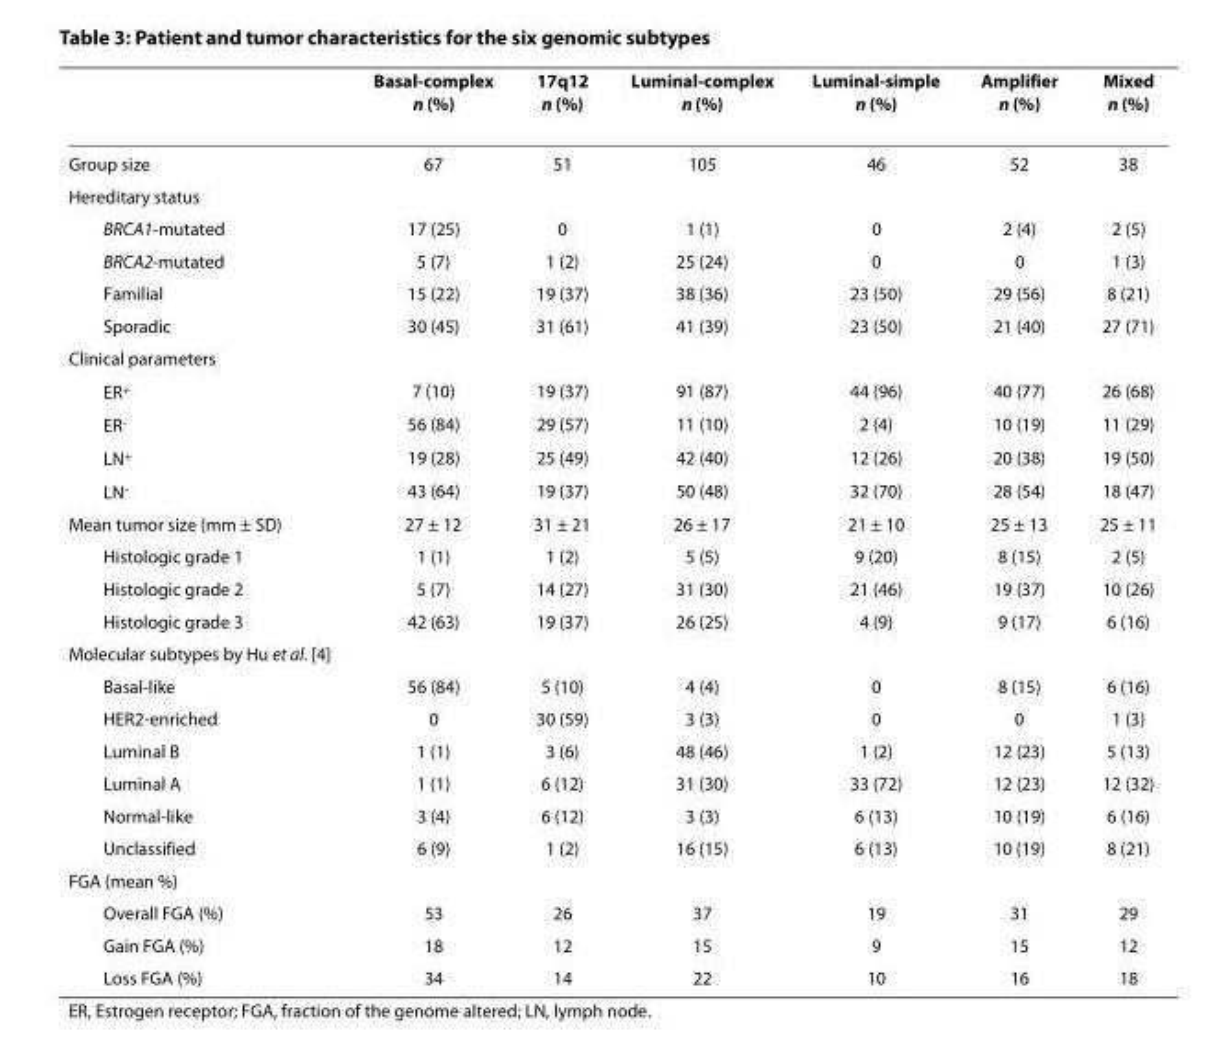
<table><thead><tr><td></td><td>Basal-complex n (%)</td><td>17q12 n (%)</td><td>Luminal-complex n (%)</td><td>Luminal-simple n (%)</td><td>Amplifier n (%)</td><td>Mixed n (%)</td></tr></thead><tbody><tr><td>Group size</td><td>67</td><td>51</td><td>105</td><td>46</td><td>52</td><td>38</td></tr><tr><td colspan="7">Hereditary status</td></tr><tr><td>BRCA1-mutated</td><td>17 (25)</td><td>0</td><td>1 (1)</td><td>0</td><td>2 (4)</td><td>2 (5)</td></tr><tr><td>BRCA2-mutated</td><td>5 (7)</td><td>1 (2)</td><td>25 (24)</td><td>0</td><td>0</td><td>1 (3)</td></tr><tr><td>Familial</td><td>15 (22)</td><td>19 (37)</td><td>38 (36)</td><td>23 (50)</td><td>29 (56)</td><td>8 (21)</td></tr><tr><td>Sporadic</td><td>30 (45)</td><td>31 (61)</td><td>41 (39)</td><td>23 (50)</td><td>21 (40)</td><td>27 (71)</td></tr><tr><td colspan="7">Clinical parameters</td></tr><tr><td>ER<sup>+</sup></td><td>7 (10)</td><td>19 (37)</td><td>91 (87)</td><td>44 (96)</td><td>40 (77)</td><td>26 (68)</td></tr><tr><td>ER<sup>-</sup></td><td>56 (84)</td><td>29 (57)</td><td>11 (10)</td><td>2 (4)</td><td>10 (19)</td><td>11 (29)</td></tr><tr><td>LN<sup>+</sup></td><td>19 (28)</td><td>25 (49)</td><td>42 (40)</td><td>12 (26)</td><td>20 (38)</td><td>19 (50)</td></tr><tr><td>LN<sup>-</sup></td><td>43 (64)</td><td>19 (37)</td><td>50 (48)</td><td>32 (70)</td><td>28 (54)</td><td>18 (47)</td></tr><tr><td>Mean tumor size (mm ± SD)</td><td>27 ± 12</td><td>31 ± 21</td><td>26 ± 17</td><td>21 ± 10</td><td>25 ± 13</td><td>25 ± 11</td></tr><tr><td>Histologic grade 1</td><td>1 (1)</td><td>1 (2)</td><td>5 (5)</td><td>9 (20)</td><td>8 (15)</td><td>2 (5)</td></tr><tr><td>Histologic grade 2</td><td>5 (7)</td><td>14 (27)</td><td>31 (30)</td><td>21 (46)</td><td>19 (37)</td><td>10 (26)</td></tr><tr><td>Histologic grade 3</td><td>42 (63)</td><td>19 (37)</td><td>26 (25)</td><td>4 (9)</td><td>9 (17)</td><td>6 (16)</td></tr><tr><td colspan="7">Molecular subtypes by Hu et al. [4]</td></tr><tr><td>Basal-like</td><td>56 (84)</td><td>5 (10)</td><td>4 (4)</td><td>0</td><td>8 (15)</td><td>6 (16)</td></tr><tr><td>HER2-enriched</td><td>0</td><td>30 (59)</td><td>3 (3)</td><td>0</td><td>0</td><td>1 (3)</td></tr><tr><td>Luminal B</td><td>1 (1)</td><td>3 (6)</td><td>48 (46)</td><td>1 (2)</td><td>12 (23)</td><td>5 (13)</td></tr><tr><td>Luminal A</td><td>1 (1)</td><td>6 (12)</td><td>31 (30)</td><td>33 (72)</td><td>12 (23)</td><td>12 (32)</td></tr><tr><td>Normal-like</td><td>3 (4)</td><td>6 (12)</td><td>3 (3)</td><td>6 (13)</td><td>10 (19)</td><td>6 (16)</td></tr><tr><td>Unclassified</td><td>6 (9)</td><td>1 (2)</td><td>16 (15)</td><td>6 (13)</td><td>10 (19)</td><td>8 (21)</td></tr><tr><td colspan="7">FGA (mean %)</td></tr><tr><td>Overall FGA (%)</td><td>53</td><td>26</td><td>37</td><td>19</td><td>31</td><td>29</td></tr><tr><td>Gain FGA (%)</td><td>18</td><td>12</td><td>15</td><td>9</td><td>15</td><td>12</td></tr><tr><td>Loss FGA (%)</td><td>34</td><td>14</td><td>22</td><td>10</td><td>16</td><td>18</td></tr></tbody></table>